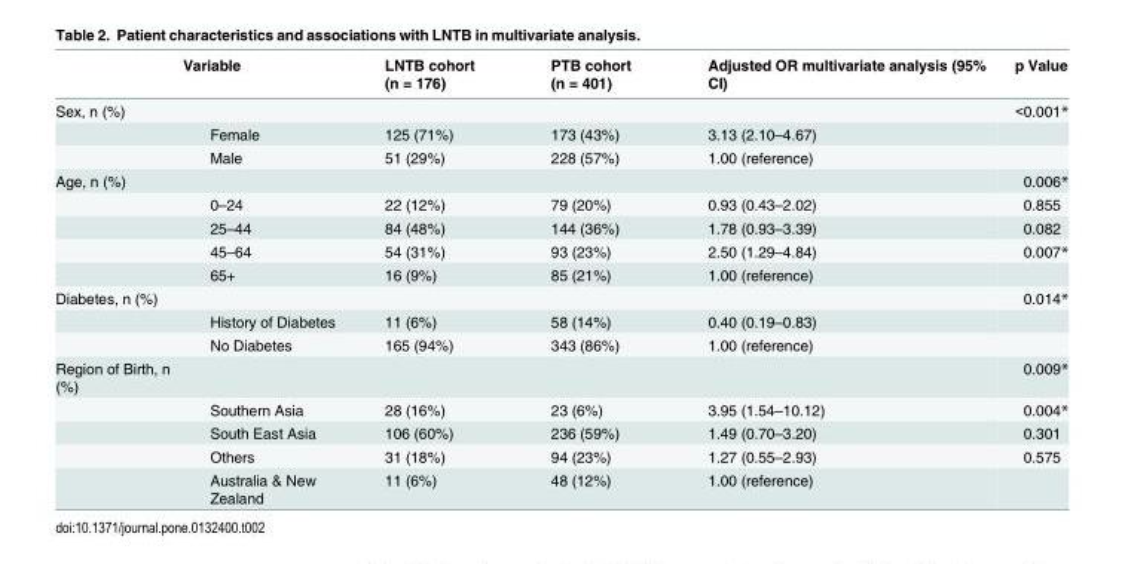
<table><thead><tr><td colspan="2">Variable</td><td rowspan="2">LNTB cohort (n = 176)</td><td rowspan="2">PTB cohort (n = 401)</td><td rowspan="2">Adjusted OR multivariate analysis (95% CI)</td><td rowspan="2">p Value &lt;0.001*</td></tr><tr><td>Sex, n (%)</td><td></td></tr></thead><tbody><tr><td></td><td>Female</td><td>125 (71%)</td><td>173 (43%)</td><td>3.13 (2.10–4.67)</td><td></td></tr><tr><td></td><td>Male</td><td>51 (29%)</td><td>228 (57%)</td><td>1.00 (reference)</td><td></td></tr><tr><td rowspan="5">Age, n (%)</td><td></td><td></td><td></td><td></td><td>0.006*</td></tr><tr><td>0–24</td><td>22 (12%)</td><td>79 (20%)</td><td>0.93 (0.43–2.02)</td><td>0.855</td></tr><tr><td>25–44</td><td>84 (48%)</td><td>144 (36%)</td><td>1.78 (0.93–3.39)</td><td>0.082</td></tr><tr><td>45–64</td><td>54 (31%)</td><td>93 (23%)</td><td>2.50 (1.29–4.84)</td><td>0.007*</td></tr><tr><td>65+</td><td>16 (9%)</td><td>85 (21%)</td><td>1.00 (reference)</td><td></td></tr><tr><td rowspan="3">Diabetes, n (%)</td><td></td><td></td><td></td><td></td><td>0.014*</td></tr><tr><td>History of Diabetes</td><td>11 (6%)</td><td>58 (14%)</td><td>0.40 (0.19–0.83)</td><td></td></tr><tr><td>No Diabetes</td><td>165 (94%)</td><td>343 (86%)</td><td>1.00 (reference)</td><td></td></tr><tr><td rowspan="5">Region of Birth, n (%)</td><td></td><td></td><td></td><td></td><td>0.009*</td></tr><tr><td>Southern Asia</td><td>28 (16%)</td><td>23 (6%)</td><td>3.95 (1.54–10.12)</td><td>0.004*</td></tr><tr><td>South East Asia</td><td>106 (60%)</td><td>236 (59%)</td><td>1.49 (0.70–3.20)</td><td>0.301</td></tr><tr><td>Others</td><td>31 (18%)</td><td>94 (23%)</td><td>1.27 (0.55–2.93)</td><td>0.575</td></tr><tr><td>Australia &amp; New Zealand</td><td>11 (6%)</td><td>48 (12%)</td><td>1.00 (reference)</td><td></td></tr></tbody></table>